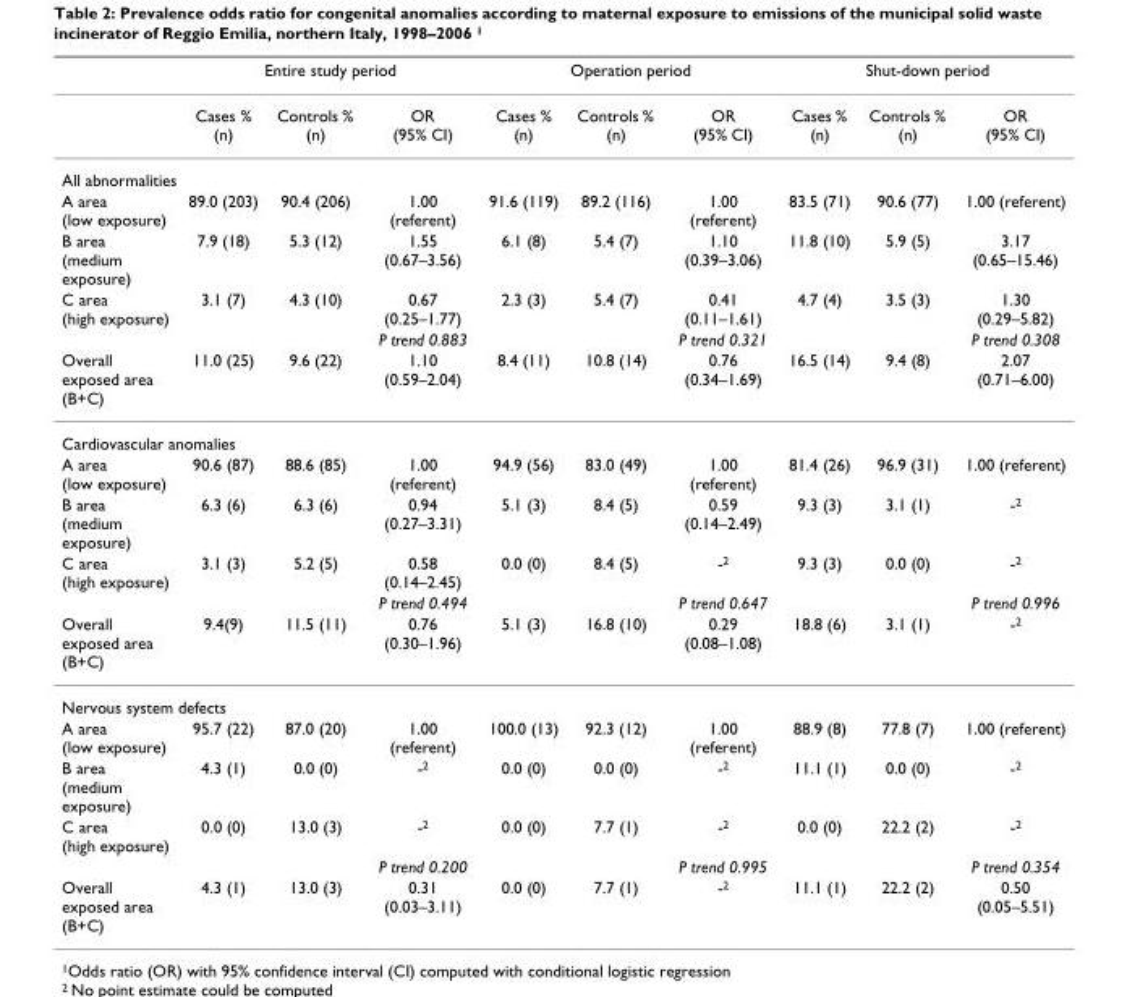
<table><thead><tr><td rowspan="2"></td><td colspan="3">Entire study period</td><td colspan="3">Operation period</td><td colspan="3">Shut-down period</td></tr><tr><td>Cases % (n)</td><td>Controls % (n)</td><td>OR (95% CI)</td><td>Cases % (n)</td><td>Controls % (n)</td><td>OR (95% CI)</td><td>Cases % (n)</td><td>Controls % (n)</td><td>OR (95% CI)</td></tr></thead><tbody><tr><td colspan="10">All abnormalities</td></tr><tr><td>A area (low exposure)</td><td>89.0 (203)</td><td>90.4 (206)</td><td>1.00 (referent)</td><td>91.6 (119)</td><td>89.2 (116)</td><td>1.00 (referent)</td><td>83.5 (71)</td><td>90.6 (77)</td><td>1.00 (referent)</td></tr><tr><td>B area (medium exposure)</td><td>7.9 (18)</td><td>5.3 (12)</td><td>1.55 (0.67–3.56)</td><td>6.1 (8)</td><td>5.4 (7)</td><td>1.10 (0.39–3.06)</td><td>11.8 (10)</td><td>5.9 (5)</td><td>3.17 (0.65–15.46)</td></tr><tr><td rowspan="2">C area (high exposure)</td><td>3.1 (7)</td><td>4.3 (10)</td><td>0.67 (0.25–1.77)</td><td>2.3 (3)</td><td>5.4 (7)</td><td>0.41 (0.11–1.61)</td><td>4.7 (4)</td><td>3.5 (3)</td><td>1.30 (0.29–5.82)</td></tr><tr><td></td><td></td><td>P trend 0.883</td><td></td><td></td><td>P trend 0.321</td><td></td><td></td><td>P trend 0.308</td></tr><tr><td>Overall exposed area (B+C)</td><td>11.0 (25)</td><td>9.6 (22)</td><td>1.10 (0.59–2.04)</td><td>8.4 (11)</td><td>10.8 (14)</td><td>0.76 (0.34–1.69)</td><td>16.5 (14)</td><td>9.4 (8)</td><td>2.07 (0.71–6.00)</td></tr><tr><td colspan="10">Cardiovascular anomalies</td></tr><tr><td>A area (low exposure)</td><td>90.6 (87)</td><td>88.6 (85)</td><td>1.00 (referent)</td><td>94.9 (56)</td><td>83.0 (49)</td><td>1.00 (referent)</td><td>81.4 (26)</td><td>96.9 (31)</td><td>1.00 (referent)</td></tr><tr><td>B area (medium exposure)</td><td>6.3 (6)</td><td>6.3 (6)</td><td>0.94 (0.27–3.31)</td><td>5.1 (3)</td><td>8.4 (5)</td><td>0.59 (0.14–2.49)</td><td>9.3 (3)</td><td>3.1 (1)</td><td>-<sup>2</sup></td></tr><tr><td rowspan="2">C area (high exposure)</td><td>3.1 (3)</td><td>5.2 (5)</td><td>0.58 (0.14–2.45)</td><td>0.0 (0)</td><td>8.4 (5)</td><td>-<sup>2</sup></td><td>9.3 (3)</td><td>0.0 (0)</td><td>-<sup>2</sup></td></tr><tr><td></td><td></td><td>P trend 0.494</td><td></td><td></td><td>P trend 0.647</td><td></td><td></td><td>P trend 0.996</td></tr><tr><td>Overall exposed area (B+C)</td><td>9.4(9)</td><td>11.5 (11)</td><td>0.76 (0.30–1.96)</td><td>5.1 (3)</td><td>16.8 (10)</td><td>0.29 (0.08–1.08)</td><td>18.8 (6)</td><td>3.1 (1)</td><td>-<sup>2</sup></td></tr><tr><td colspan="10">Nervous system defects</td></tr><tr><td>A area (low exposure)</td><td>95.7 (22)</td><td>87.0 (20)</td><td>1.00 (referent)</td><td>100.0 (13)</td><td>92.3 (12)</td><td>1.00 (referent)</td><td>88.9 (8)</td><td>77.8 (7)</td><td>1.00 (referent)</td></tr><tr><td>B area (medium exposure)</td><td>4.3 (1)</td><td>0.0 (0)</td><td>-<sup>2</sup></td><td>0.0 (0)</td><td>0.0 (0)</td><td>-<sup>2</sup></td><td>11.1 (1)</td><td>0.0 (0)</td><td>-<sup>2</sup></td></tr><tr><td rowspan="2">C area (high exposure)</td><td>0.0 (0)</td><td>13.0 (3)</td><td>-<sup>2</sup></td><td>0.0 (0)</td><td>7.7 (1)</td><td>-<sup>2</sup></td><td>0.0 (0)</td><td>22.2 (2)</td><td>-<sup>2</sup></td></tr><tr><td></td><td></td><td>P trend 0.200</td><td></td><td></td><td>P trend 0.995</td><td></td><td></td><td>P trend 0.354</td></tr><tr><td>Overall exposed area (B+C)</td><td>4.3 (1)</td><td>13.0 (3)</td><td>0.31 (0.03–3.11)</td><td>0.0 (0)</td><td>7.7 (1)</td><td>-<sup>2</sup></td><td>11.1 (1)</td><td>22.2 (2)</td><td>0.50 (0.05–5.51)</td></tr></tbody></table>